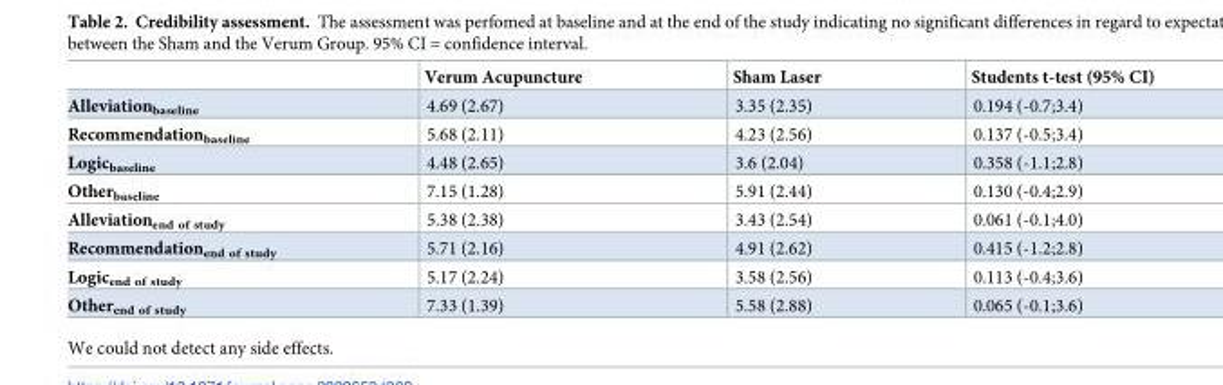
<table><thead><tr><td></td><td>Verum Acupuncture</td><td>Sham Laser</td><td>Students t-test (95% CI)</td></tr></thead><tbody><tr><td>Alleviation<sub>baseline</sub></td><td>4.69 (2.67)</td><td>3.35 (2.35)</td><td>0.194 (-0.7;3.4)</td></tr><tr><td>Recommendation<sub>baseline</sub></td><td>5.68 (2.11)</td><td>4.23 (2.56)</td><td>0.137 (-0.5;3.4)</td></tr><tr><td>Logic<sub>baseline</sub></td><td>4.48 (2.65)</td><td>3.6 (2.04)</td><td>0.358 (-1.1;2.8)</td></tr><tr><td>Other<sub>baseline</sub></td><td>7.15 (1.28)</td><td>5.91 (2.44)</td><td>0.130 (-0.4;2.9)</td></tr><tr><td>Alleviation<sub>end of study</sub></td><td>5.38 (2.38)</td><td>3.43 (2.54)</td><td>0.061 (-0.1;4.0)</td></tr><tr><td>Recommendation<sub>end of study</sub></td><td>5.71 (2.16)</td><td>4.91 (2.62)</td><td>0.415 (-1.2;2.8)</td></tr><tr><td>Logic<sub>end of study</sub></td><td>5.17 (2.24)</td><td>3.58 (2.56)</td><td>0.113 (-0.4;3.6)</td></tr><tr><td>Other<sub>end of study</sub></td><td>7.33 (1.39)</td><td>5.58 (2.88)</td><td>0.065 (-0.1;3.6)</td></tr></tbody></table>